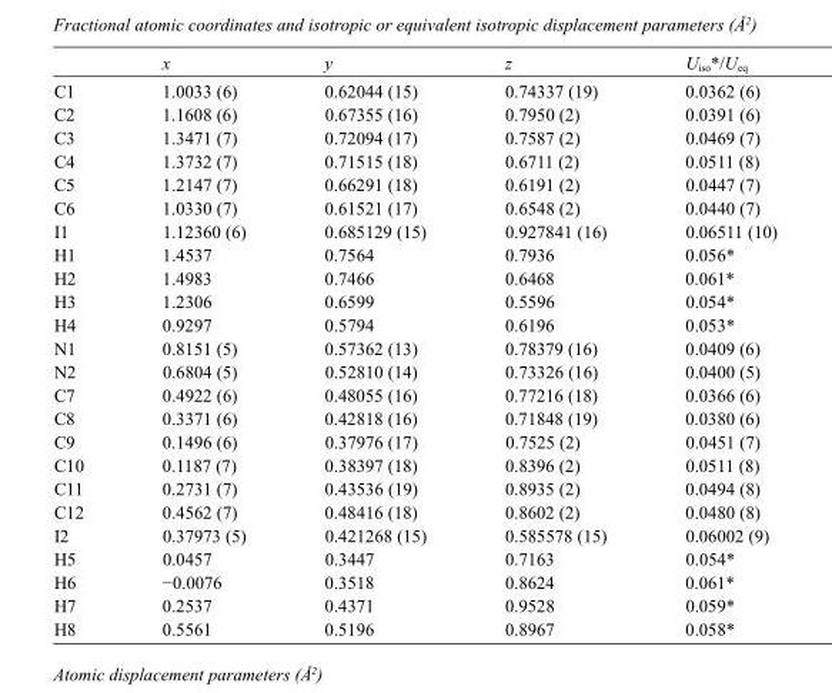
<table><thead><tr><td></td><td>x</td><td>y</td><td>z</td><td>U<sub>iso</sub>*/U<sub>eq</sub></td></tr></thead><tbody><tr><td>C1</td><td>1.0033 (6)</td><td>0.62044 (15)</td><td>0.74337 (19)</td><td>0.0362 (6)</td></tr><tr><td>C2</td><td>1.1608 (6)</td><td>0.67355 (16)</td><td>0.7950 (2)</td><td>0.0391 (6)</td></tr><tr><td>C3</td><td>1.3471 (7)</td><td>0.72094 (17)</td><td>0.7587 (2)</td><td>0.0469 (7)</td></tr><tr><td>C4</td><td>1.3732 (7)</td><td>0.71515 (18)</td><td>0.6711 (2)</td><td>0.0511 (8)</td></tr><tr><td>C5</td><td>1.2147 (7)</td><td>0.66291 (18)</td><td>0.6191 (2)</td><td>0.0447 (7)</td></tr><tr><td>C6</td><td>1.0330 (7)</td><td>0.61521 (17)</td><td>0.6548 (2)</td><td>0.0440 (7)</td></tr><tr><td>I1</td><td>1.12360 (6)</td><td>0.685129 (15)</td><td>0.927841 (16)</td><td>0.06511 (10)</td></tr><tr><td>H1</td><td>1.4537</td><td>0.7564</td><td>0.7936</td><td>0.056*</td></tr><tr><td>H2</td><td>1.4983</td><td>0.7466</td><td>0.6468</td><td>0.061*</td></tr><tr><td>H3</td><td>1.2306</td><td>0.6599</td><td>0.5596</td><td>0.054*</td></tr><tr><td>H4</td><td>0.9297</td><td>0.5794</td><td>0.6196</td><td>0.053*</td></tr><tr><td>N1</td><td>0.8151 (5)</td><td>0.57362 (13)</td><td>0.78379 (16)</td><td>0.0409 (6)</td></tr><tr><td>N2</td><td>0.6804 (5)</td><td>0.52810 (14)</td><td>0.73326 (16)</td><td>0.0400 (5)</td></tr><tr><td>C7</td><td>0.4922 (6)</td><td>0.48055 (16)</td><td>0.77216 (18)</td><td>0.0366 (6)</td></tr><tr><td>C8</td><td>0.3371 (6)</td><td>0.42818 (16)</td><td>0.71848 (19)</td><td>0.0380 (6)</td></tr><tr><td>C9</td><td>0.1496 (6)</td><td>0.37976 (17)</td><td>0.7525 (2)</td><td>0.0451 (7)</td></tr><tr><td>C10</td><td>0.1187 (7)</td><td>0.38397 (18)</td><td>0.8396 (2)</td><td>0.0511 (8)</td></tr><tr><td>C11</td><td>0.2731 (7)</td><td>0.43536 (19)</td><td>0.8935 (2)</td><td>0.0494 (8)</td></tr><tr><td>C12</td><td>0.4562 (7)</td><td>0.48416 (18)</td><td>0.8602 (2)</td><td>0.0480 (8)</td></tr><tr><td>I2</td><td>0.37973 (5)</td><td>0.421268 (15)</td><td>0.585578 (15)</td><td>0.06002 (9)</td></tr><tr><td>H5</td><td>0.0457</td><td>0.3447</td><td>0.7163</td><td>0.054*</td></tr><tr><td>H6</td><td>−0.0076</td><td>0.3518</td><td>0.8624</td><td>0.061*</td></tr><tr><td>H7</td><td>0.2537</td><td>0.4371</td><td>0.9528</td><td>0.059*</td></tr><tr><td>H8</td><td>0.5561</td><td>0.5196</td><td>0.8967</td><td>0.058*</td></tr></tbody></table>